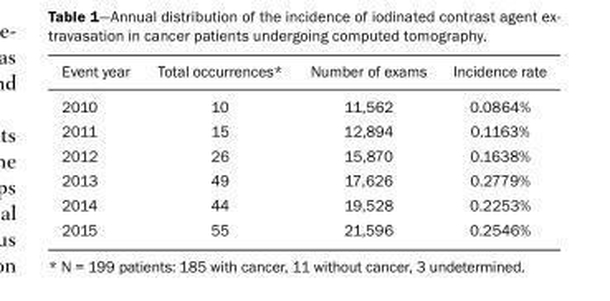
<table><thead><tr><td>Event year</td><td>Total occurrences*</td><td>Number of exams</td><td>Incidence rate</td></tr></thead><tbody><tr><td>2010</td><td>10</td><td>11,562</td><td>0.0864%</td></tr><tr><td>2011</td><td>15</td><td>12,894</td><td>0.1163%</td></tr><tr><td>2012</td><td>26</td><td>15,870</td><td>0.1638%</td></tr><tr><td>2013</td><td>49</td><td>17,626</td><td>0.2779%</td></tr><tr><td>2014</td><td>44</td><td>19,528</td><td>0.2253%</td></tr><tr><td>2015</td><td>55</td><td>21,596</td><td>0.2546%</td></tr></tbody></table>